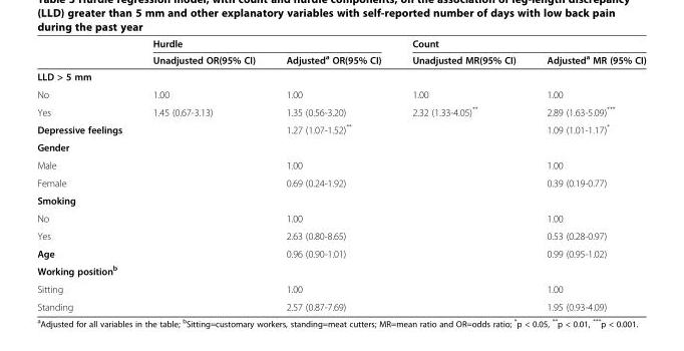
<table><thead><tr><td rowspan="2"></td><td colspan="2">Hurdle</td><td colspan="2">Count</td></tr><tr><td>Unadjusted OR(95% CI)</td><td>Adjusted<sup>a</sup> OR(95% CI)</td><td>Unadjusted MR(95% CI)</td><td>Adjusted<sup>a</sup> MR (95% CI)</td></tr></thead><tbody><tr><td colspan="5">LLD &gt; 5 mm</td></tr><tr><td>No</td><td>1.00</td><td>1.00</td><td>1.00</td><td>1.00</td></tr><tr><td>Yes</td><td>1.45 (0.67-3.13)</td><td>1.35 (0.56-3.20)</td><td>2.32 (1.33-4.05)**</td><td>2.89 (1.63-5.09)***</td></tr><tr><td>Depressive feelings</td><td></td><td>1.27 (1.07-1.52)**</td><td></td><td>1.09 (1.01-1.17)*</td></tr><tr><td colspan="5">Gender</td></tr><tr><td>Male</td><td></td><td>1.00</td><td></td><td>1.00</td></tr><tr><td>Female</td><td></td><td>0.69 (0.24-1.92)</td><td></td><td>0.39 (0.19-0.77)</td></tr><tr><td colspan="5">Smoking</td></tr><tr><td>No</td><td></td><td>1.00</td><td></td><td>1.00</td></tr><tr><td>Yes</td><td></td><td>2.63 (0.80-8.65)</td><td></td><td>0.53 (0.28-0.97)</td></tr><tr><td>Age</td><td></td><td>0.96 (0.90-1.01)</td><td></td><td>0.99 (0.95-1.02)</td></tr><tr><td colspan="5">Working position<sup>b</sup></td></tr><tr><td>Sitting</td><td></td><td>1.00</td><td></td><td>1.00</td></tr><tr><td>Standing</td><td></td><td>2.57 (0.87-7.69)</td><td></td><td>1.95 (0.93-4.09)</td></tr></tbody></table>